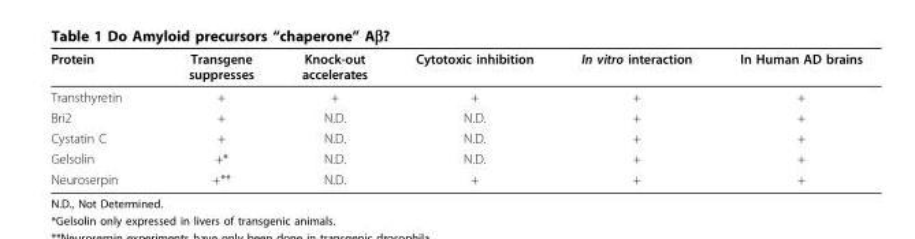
<table><thead><tr><td>Protein</td><td>Transgene suppresses</td><td>Knock-out accelerates</td><td>Cytotoxic inhibition</td><td>In vitro interaction</td><td>In Human AD brains</td></tr></thead><tbody><tr><td>Transthyretin</td><td>+</td><td>+</td><td>+</td><td>+</td><td>+</td></tr><tr><td>Bri2</td><td>+</td><td>N.D.</td><td>N.D.</td><td>+</td><td>+</td></tr><tr><td>Cystatin C</td><td>+</td><td>N.D.</td><td>N.D.</td><td>+</td><td>+</td></tr><tr><td>Gelsolin</td><td>+*</td><td>N.D.</td><td>N.D.</td><td>+</td><td>+</td></tr><tr><td>Neuroserpin</td><td>+**</td><td>N.D.</td><td>+</td><td>+</td><td>+</td></tr></tbody></table>